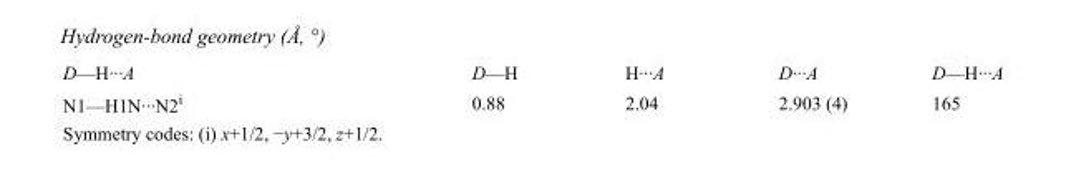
<table><tbody><tr><td>D—H···A</td><td>D—H</td><td>H···A</td><td>D···A</td><td>D—H···A</td></tr><tr><td>N1—H1N···N2<sup>i</sup></td><td>0.88</td><td>2.04</td><td>2.903 (4)</td><td>165</td></tr></tbody></table>